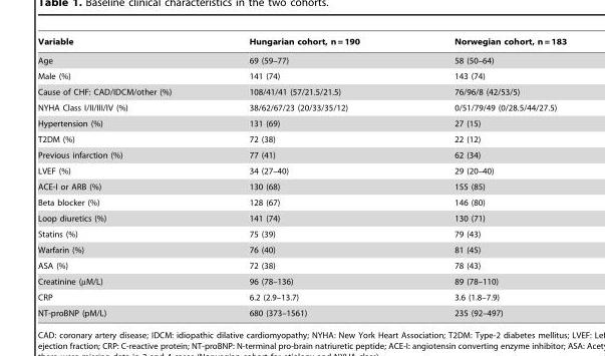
<table><thead><tr><td>Variable</td><td>Hungarian cohort, n = 190</td><td>Norwegian cohort, n = 183</td></tr></thead><tbody><tr><td>Age</td><td>69 (59–77)</td><td>58 (50–64)</td></tr><tr><td>Male (%)</td><td>141 (74)</td><td>143 (74)</td></tr><tr><td>Cause of CHF: CAD/IDCM/other (%)</td><td>108/41/41 (57/21.5/21.5)</td><td>76/96/8 (42/53/5)</td></tr><tr><td>NYHA Class I/II/III/IV (%)</td><td>38/62/67/23 (20/33/35/12)</td><td>0/51/79/49 (0/28.5/44/27.5)</td></tr><tr><td>Hypertension (%)</td><td>131 (69)</td><td>27 (15)</td></tr><tr><td>T2DM (%)</td><td>72 (38)</td><td>22 (12)</td></tr><tr><td>Previous infarction (%)</td><td>77 (41)</td><td>62 (34)</td></tr><tr><td>LVEF (%)</td><td>34 (27–40)</td><td>29 (20–40)</td></tr><tr><td>ACE-I or ARB (%)</td><td>130 (68)</td><td>155 (85)</td></tr><tr><td>Beta blocker (%)</td><td>128 (67)</td><td>146 (80)</td></tr><tr><td>Loop diuretics (%)</td><td>141 (74)</td><td>130 (71)</td></tr><tr><td>Statins (%)</td><td>75 (39)</td><td>79 (43)</td></tr><tr><td>Warfarin (%)</td><td>76 (40)</td><td>81 (45)</td></tr><tr><td>ASA (%)</td><td>72 (38)</td><td>78 (43)</td></tr><tr><td>Creatinine (µM/L)</td><td>96 (78–136)</td><td>89 (78–110)</td></tr><tr><td>CRP</td><td>6.2 (2.9–13.7)</td><td>3.6 (1.8–7.9)</td></tr><tr><td>NT-proBNP (pM/L)</td><td>680 (373–1561)</td><td>235 (92–497)</td></tr></tbody></table>